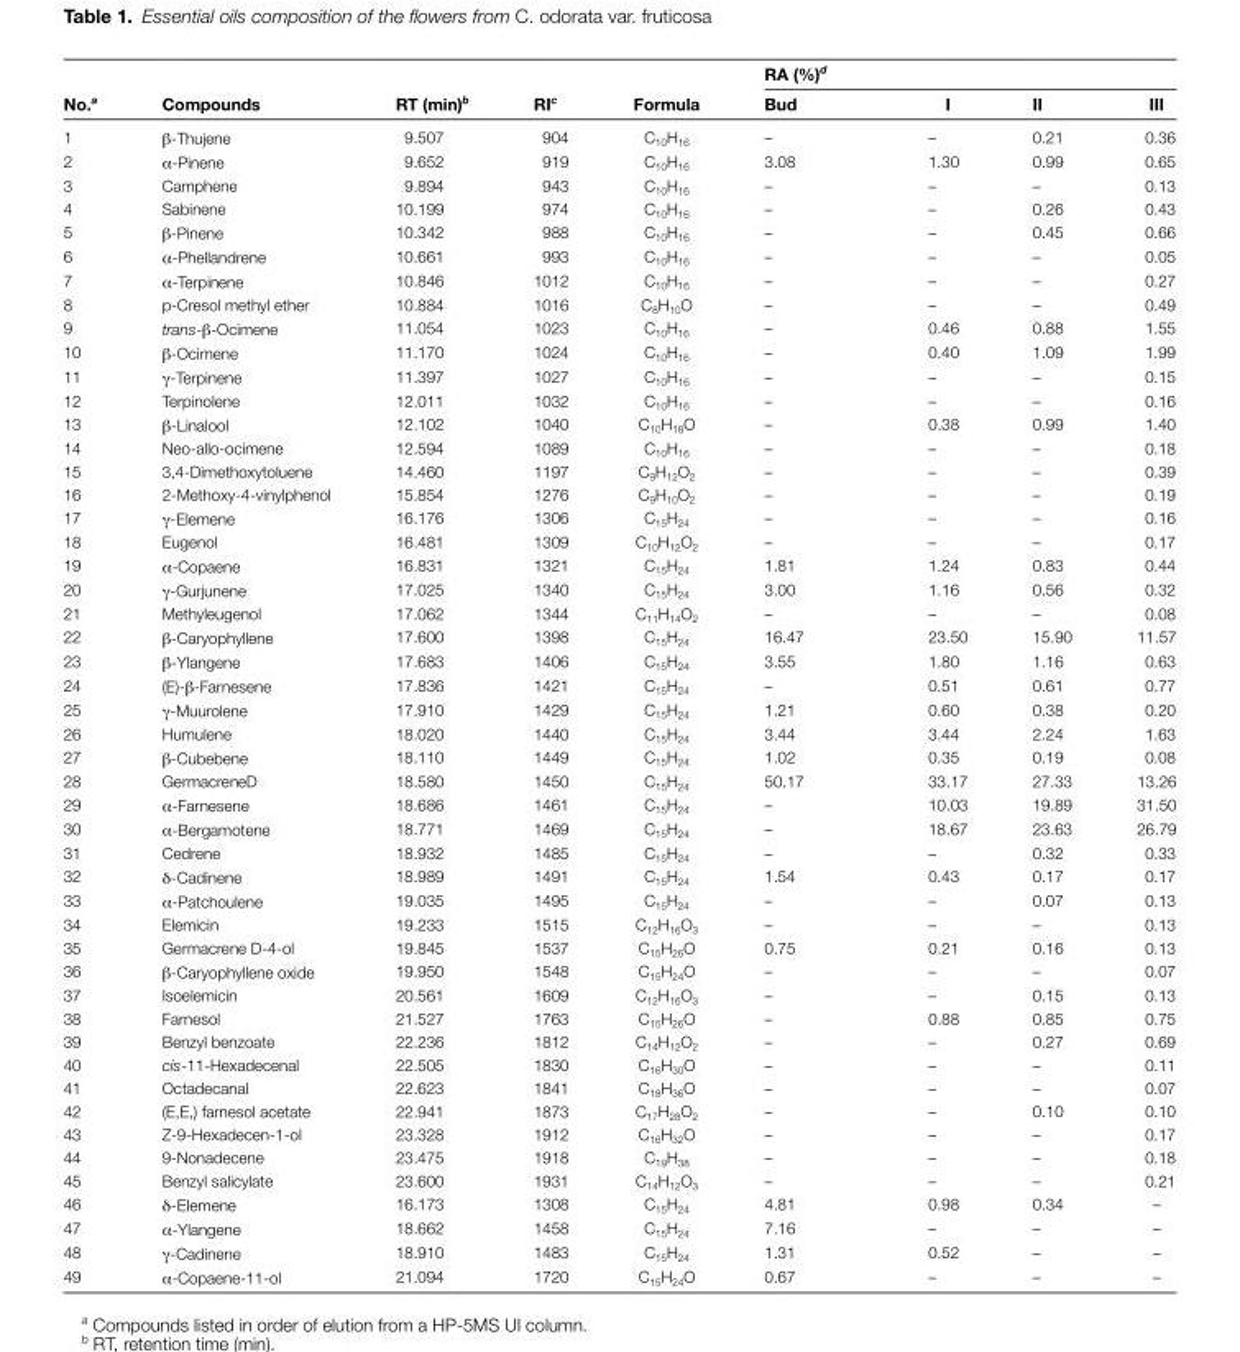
<table><thead><tr><td rowspan="2">No.<sup>a</sup></td><td rowspan="2">Compounds</td><td rowspan="2">RT (min)<sup>b</sup></td><td rowspan="2">RI<sup>c</sup></td><td rowspan="2">Formula</td><td colspan="4">RA (%)<sup>d</sup></td></tr><tr><td>Bud</td><td>I</td><td>II</td><td>III</td></tr></thead><tbody><tr><td>1</td><td>β-Thujene</td><td>9.507</td><td>904</td><td>C<sub>10</sub>H<sub>16</sub></td><td>–</td><td>–</td><td>0.21</td><td>0.36</td></tr><tr><td>2</td><td>α-Pinene</td><td>9.652</td><td>919</td><td>C<sub>10</sub>H<sub>16</sub></td><td>3.08</td><td>1.30</td><td>0.99</td><td>0.65</td></tr><tr><td>3</td><td>Camphene</td><td>9.894</td><td>943</td><td>C<sub>10</sub>H<sub>16</sub></td><td>–</td><td>–</td><td>–</td><td>0.13</td></tr><tr><td>4</td><td>Sabinene</td><td>10.199</td><td>974</td><td>C<sub>10</sub>H<sub>16</sub></td><td>–</td><td>–</td><td>0.26</td><td>0.43</td></tr><tr><td>5</td><td>β-Pinene</td><td>10.342</td><td>988</td><td>C<sub>10</sub>H<sub>16</sub></td><td>–</td><td>–</td><td>0.45</td><td>0.66</td></tr><tr><td>6</td><td>α-Phellandrene</td><td>10.661</td><td>993</td><td>C<sub>10</sub>H<sub>16</sub></td><td>–</td><td>–</td><td>–</td><td>0.05</td></tr><tr><td>7</td><td>α-Terpinene</td><td>10.846</td><td>1012</td><td>C<sub>10</sub>H<sub>16</sub></td><td>–</td><td>–</td><td>–</td><td>0.27</td></tr><tr><td>8</td><td>p-Cresol methyl ether</td><td>10.884</td><td>1016</td><td>C<sub>8</sub>H<sub>10</sub>O</td><td>–</td><td>–</td><td>–</td><td>0.49</td></tr><tr><td>9</td><td>trans-β-Ocimene</td><td>11.054</td><td>1023</td><td>C<sub>10</sub>H<sub>16</sub></td><td>–</td><td>0.46</td><td>0.88</td><td>1.55</td></tr><tr><td>10</td><td>β-Ocimene</td><td>11.170</td><td>1024</td><td>C<sub>10</sub>H<sub>16</sub></td><td>–</td><td>0.40</td><td>1.09</td><td>1.99</td></tr><tr><td>11</td><td>γ-Terpinene</td><td>11.397</td><td>1027</td><td>C<sub>10</sub>H<sub>16</sub></td><td>–</td><td>–</td><td>–</td><td>0.15</td></tr><tr><td>12</td><td>Terpinolene</td><td>12.011</td><td>1032</td><td>C<sub>10</sub>H<sub>16</sub></td><td>–</td><td>–</td><td>–</td><td>0.16</td></tr><tr><td>13</td><td>β-Linalool</td><td>12.102</td><td>1040</td><td>C<sub>10</sub>H<sub>18</sub>O</td><td>–</td><td>0.38</td><td>0.99</td><td>1.40</td></tr><tr><td>14</td><td>Neo-allo-ocimene</td><td>12.594</td><td>1089</td><td>C<sub>10</sub>H<sub>16</sub></td><td>–</td><td>–</td><td>–</td><td>0.18</td></tr><tr><td>15</td><td>3,4-Dimethoxytoluene</td><td>14.460</td><td>1197</td><td>C<sub>9</sub>H<sub>12</sub>O<sub>2</sub></td><td>–</td><td>–</td><td>–</td><td>0.39</td></tr><tr><td>16</td><td>2-Methoxy-4-vinylphenol</td><td>15.854</td><td>1276</td><td>C<sub>9</sub>H<sub>10</sub>O<sub>2</sub></td><td>–</td><td>–</td><td>–</td><td>0.19</td></tr><tr><td>17</td><td>γ-Elemene</td><td>16.176</td><td>1306</td><td>C<sub>15</sub>H<sub>24</sub></td><td>–</td><td>–</td><td>–</td><td>0.16</td></tr><tr><td>18</td><td>Eugenol</td><td>16.481</td><td>1309</td><td>C<sub>10</sub>H<sub>12</sub>O<sub>2</sub></td><td>–</td><td>–</td><td>–</td><td>0.17</td></tr><tr><td>19</td><td>α-Copaene</td><td>16.831</td><td>1321</td><td>C<sub>15</sub>H<sub>24</sub></td><td>1.81</td><td>1.24</td><td>0.83</td><td>0.44</td></tr><tr><td>20</td><td>γ-Gurjunene</td><td>17.025</td><td>1340</td><td>C<sub>15</sub>H<sub>24</sub></td><td>3.00</td><td>1.16</td><td>0.56</td><td>0.32</td></tr><tr><td>21</td><td>Methyleugenol</td><td>17.062</td><td>1344</td><td>C<sub>11</sub>H<sub>14</sub>O<sub>2</sub></td><td>–</td><td>–</td><td>–</td><td>0.08</td></tr><tr><td>22</td><td>β-Caryophyllene</td><td>17.600</td><td>1398</td><td>C<sub>15</sub>H<sub>24</sub></td><td>16.47</td><td>23.50</td><td>15.90</td><td>11.57</td></tr><tr><td>23</td><td>β-Ylangene</td><td>17.683</td><td>1406</td><td>C<sub>15</sub>H<sub>24</sub></td><td>3.55</td><td>1.80</td><td>1.16</td><td>0.63</td></tr><tr><td>24</td><td>(E)-β-Farnesene</td><td>17.836</td><td>1421</td><td>C<sub>15</sub>H<sub>24</sub></td><td>–</td><td>0.51</td><td>0.61</td><td>0.77</td></tr><tr><td>25</td><td>γ-Muurolene</td><td>17.910</td><td>1429</td><td>C<sub>15</sub>H<sub>24</sub></td><td>1.21</td><td>0.60</td><td>0.38</td><td>0.20</td></tr><tr><td>26</td><td>Humulene</td><td>18.020</td><td>1440</td><td>C<sub>15</sub>H<sub>24</sub></td><td>3.44</td><td>3.44</td><td>2.24</td><td>1.63</td></tr><tr><td>27</td><td>β-Cubebene</td><td>18.110</td><td>1449</td><td>C<sub>15</sub>H<sub>24</sub></td><td>1.02</td><td>0.35</td><td>0.19</td><td>0.08</td></tr><tr><td>28</td><td>GermacreneD</td><td>18.580</td><td>1450</td><td>C<sub>15</sub>H<sub>24</sub></td><td>50.17</td><td>33.17</td><td>27.33</td><td>13.26</td></tr><tr><td>29</td><td>α-Farnesene</td><td>18.686</td><td>1461</td><td>C<sub>15</sub>H<sub>24</sub></td><td>–</td><td>10.03</td><td>19.89</td><td>31.50</td></tr><tr><td>30</td><td>α-Bergamotene</td><td>18.771</td><td>1469</td><td>C<sub>15</sub>H<sub>24</sub></td><td>–</td><td>18.67</td><td>23.63</td><td>26.79</td></tr><tr><td>31</td><td>Cedrene</td><td>18.932</td><td>1485</td><td>C<sub>15</sub>H<sub>24</sub></td><td>–</td><td>–</td><td>0.32</td><td>0.33</td></tr><tr><td>32</td><td>δ-Cadinene</td><td>18.989</td><td>1491</td><td>C<sub>15</sub>H<sub>24</sub></td><td>1.54</td><td>0.43</td><td>0.17</td><td>0.17</td></tr><tr><td>33</td><td>α-Patchoulene</td><td>19.035</td><td>1495</td><td>C<sub>15</sub>H<sub>24</sub></td><td>–</td><td>–</td><td>0.07</td><td>0.13</td></tr><tr><td>34</td><td>Elemicin</td><td>19.233</td><td>1515</td><td>C<sub>12</sub>H<sub>16</sub>O<sub>3</sub></td><td>–</td><td>–</td><td>–</td><td>0.13</td></tr><tr><td>35</td><td>Germacrene D-4-ol</td><td>19.845</td><td>1537</td><td>C<sub>15</sub>H<sub>26</sub>O</td><td>0.75</td><td>0.21</td><td>0.16</td><td>0.13</td></tr><tr><td>36</td><td>β-Caryophyllene oxide</td><td>19.950</td><td>1548</td><td>C<sub>15</sub>H<sub>24</sub>O</td><td>–</td><td>–</td><td>–</td><td>0.07</td></tr><tr><td>37</td><td>Isoelemicin</td><td>20.561</td><td>1609</td><td>C<sub>12</sub>H<sub>16</sub>O<sub>3</sub></td><td>–</td><td>–</td><td>0.15</td><td>0.13</td></tr><tr><td>38</td><td>Farnesol</td><td>21.527</td><td>1763</td><td>C<sub>15</sub>H<sub>26</sub>O</td><td>–</td><td>0.88</td><td>0.85</td><td>0.75</td></tr><tr><td>39</td><td>Benzyl benzoate</td><td>22.236</td><td>1812</td><td>C<sub>14</sub>H<sub>12</sub>O<sub>2</sub></td><td>–</td><td>–</td><td>0.27</td><td>0.69</td></tr><tr><td>40</td><td>cis-11-Hexadecenal</td><td>22.505</td><td>1830</td><td>C<sub>16</sub>H<sub>30</sub>O</td><td>–</td><td>–</td><td>–</td><td>0.11</td></tr><tr><td>41</td><td>Octadecanal</td><td>22.623</td><td>1841</td><td>C<sub>18</sub>H<sub>36</sub>O</td><td>–</td><td>–</td><td>–</td><td>0.07</td></tr><tr><td>42</td><td>(E,E,) farnesol acetate</td><td>22.941</td><td>1873</td><td>C<sub>17</sub>H<sub>28</sub>O<sub>2</sub></td><td>–</td><td>–</td><td>0.10</td><td>0.10</td></tr><tr><td>43</td><td>Z-9-Hexadecen-1-ol</td><td>23.328</td><td>1912</td><td>C<sub>16</sub>H<sub>32</sub>O</td><td>–</td><td>–</td><td>–</td><td>0.17</td></tr><tr><td>44</td><td>9-Nonadecene</td><td>23.475</td><td>1918</td><td>C<sub>19</sub>H<sub>38</sub></td><td>–</td><td>–</td><td>–</td><td>0.18</td></tr><tr><td>45</td><td>Benzyl salicylate</td><td>23.600</td><td>1931</td><td>C<sub>14</sub>H<sub>12</sub>O<sub>3</sub></td><td>–</td><td>–</td><td>–</td><td>0.21</td></tr><tr><td>46</td><td>δ-EIemene</td><td>16.173</td><td>1308</td><td>C<sub>15</sub>H<sub>24</sub></td><td>4.81</td><td>0.98</td><td>0.34</td><td>–</td></tr><tr><td>47</td><td>α-Ylangene</td><td>18.662</td><td>1458</td><td>C<sub>15</sub>H<sub>24</sub></td><td>7.16</td><td>–</td><td>–</td><td>–</td></tr><tr><td>48</td><td>γ-Cadinene</td><td>18.910</td><td>1483</td><td>C<sub>15</sub>H<sub>24</sub></td><td>1.31</td><td>0.52</td><td>–</td><td>–</td></tr><tr><td>49</td><td>α-Copaene-11-ol</td><td>21.094</td><td>1720</td><td>C<sub>15</sub>H<sub>24</sub>O</td><td>0.67</td><td>–</td><td>–</td><td>–</td></tr></tbody></table>